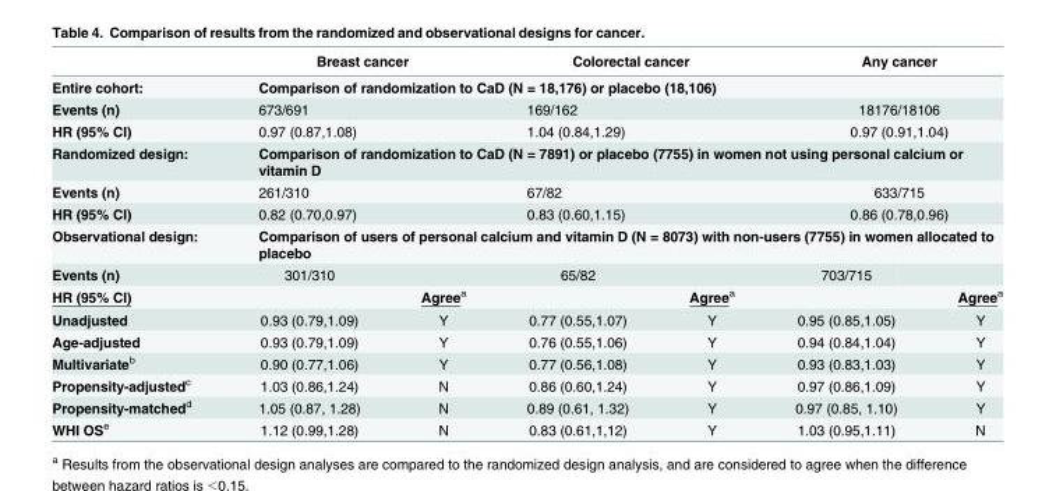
<table><thead><tr><td></td><td colspan="2">Breast cancer</td><td colspan="2">Colorectal cancer</td><td colspan="2">Any cancer</td></tr></thead><tbody><tr><td>Entire cohort:</td><td colspan="6">Comparison of randomization to CaD (N = 18,176) or placebo (18,106)</td></tr><tr><td>Events (n)</td><td colspan="2">673/691</td><td colspan="2">169/162</td><td colspan="2">18176/18106</td></tr><tr><td>HR (95% CI)</td><td colspan="2">0.97 (0.87,1.08)</td><td colspan="2">1.04 (0.84,1.29)</td><td colspan="2">0.97 (0.91,1.04)</td></tr><tr><td>Randomized design:</td><td colspan="6">Comparison of randomization to CaD (N = 7891) or placebo (7755) in women not using personal calcium or vitamin D</td></tr><tr><td>Events (n)</td><td colspan="2">261/310</td><td colspan="2">67/82</td><td colspan="2">633/715</td></tr><tr><td>HR (95% CI)</td><td colspan="2">0.82 (0.70,0.97)</td><td colspan="2">0.83 (0.60,1.15)</td><td colspan="2">0.86 (0.78,0.96)</td></tr><tr><td>Observational design:</td><td colspan="6">Comparison of users of personal calcium and vitamin D (N = 8073) with non-users (7755) in women allocated to placebo</td></tr><tr><td>Events (n)</td><td>301/310</td><td></td><td>65/82</td><td></td><td>703/715</td><td></td></tr><tr><td>HR (95% CI)</td><td></td><td>Agree<sup>a</sup></td><td></td><td>Agree<sup>a</sup></td><td></td><td>Agree<sup>a</sup></td></tr><tr><td>Unadjusted</td><td>0.93 (0.79,1.09)</td><td>Y</td><td>0.77 (0.55,1.07)</td><td>Y</td><td>0.95 (0.85,1.05)</td><td>Y</td></tr><tr><td>Age-adjusted</td><td>0.93 (0.79,1.09)</td><td>Y</td><td>0.76 (0.55,1.06)</td><td>Y</td><td>0.94 (0.84,1.04)</td><td>Y</td></tr><tr><td>Multivariate<sup>b</sup></td><td>0.90 (0.77,1.06)</td><td>Y</td><td>0.77 (0.56,1.08)</td><td>Y</td><td>0.93 (0.83,1.03)</td><td>Y</td></tr><tr><td>Propensity-adjusted<sup>c</sup></td><td>1.03 (0.86,1.24)</td><td>N</td><td>0.86 (0.60,1.24)</td><td>Y</td><td>0.97 (0.86,1.09)</td><td>Y</td></tr><tr><td>Propensity-matched<sup>d</sup></td><td>1.05 (0.87, 1.28)</td><td>N</td><td>0.89 (0.61, 1.32)</td><td>Y</td><td>0.97 (0.85, 1.10)</td><td>Y</td></tr><tr><td>WHI OS<sup>e</sup></td><td>1.12 (0.99,1.28)</td><td>N</td><td>0.83 (0.61,1,12)</td><td>Y</td><td>1.03 (0.95,1.11)</td><td>N</td></tr></tbody></table>